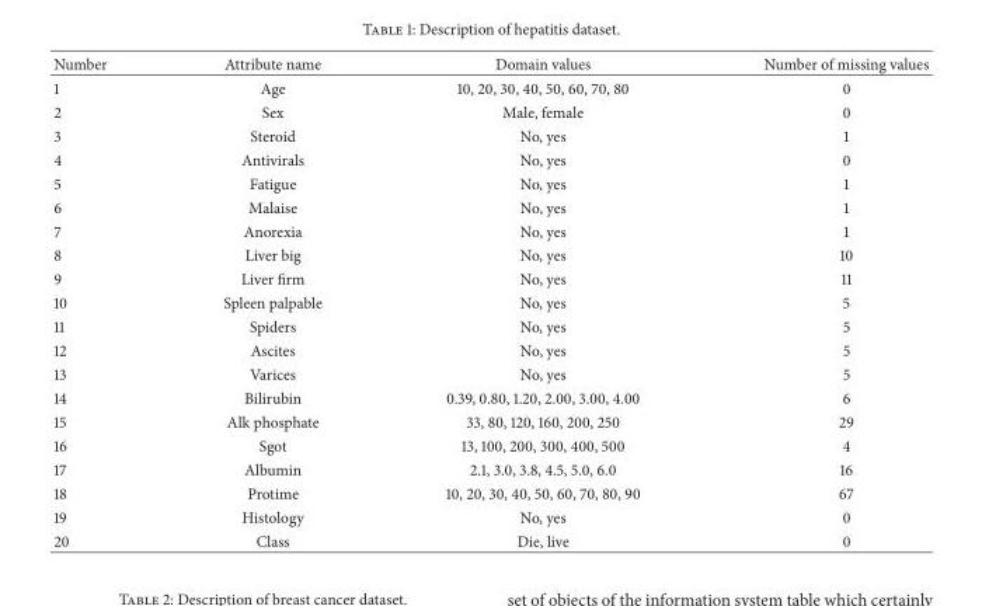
<table><thead><tr><td>Number</td><td>Attribute name</td><td>Domain values</td><td>Number of missing values</td></tr></thead><tbody><tr><td>1</td><td>Age</td><td>10, 20, 30, 40, 50, 60, 70, 80</td><td>0</td></tr><tr><td>2</td><td>Sex</td><td>Male, female</td><td>0</td></tr><tr><td>3</td><td>Steroid</td><td>No, yes</td><td>1</td></tr><tr><td>4</td><td>Antivirals</td><td>No, yes</td><td>0</td></tr><tr><td>5</td><td>Fatigue</td><td>No, yes</td><td>1</td></tr><tr><td>6</td><td>Malaise</td><td>No, yes</td><td>1</td></tr><tr><td>7</td><td>Anorexia</td><td>No, yes</td><td>1</td></tr><tr><td>8</td><td>Liver big</td><td>No, yes</td><td>10</td></tr><tr><td>9</td><td>Liver firm</td><td>No, yes</td><td>11</td></tr><tr><td>10</td><td>Spleen palpable</td><td>No, yes</td><td>5</td></tr><tr><td>11</td><td>Spiders</td><td>No, yes</td><td>5</td></tr><tr><td>12</td><td>Ascites</td><td>No, yes</td><td>5</td></tr><tr><td>13</td><td>Varices</td><td>No, yes</td><td>5</td></tr><tr><td>14</td><td>Bilirubin</td><td>0.39, 0.80, 1.20, 2.00, 3.00, 4.00</td><td>6</td></tr><tr><td>15</td><td>Alk phosphate</td><td>33, 80, 120, 160, 200, 250</td><td>29</td></tr><tr><td>16</td><td>Sgot</td><td>13, 100, 200, 300, 400, 500</td><td>4</td></tr><tr><td>17</td><td>Albumin</td><td>2.1, 3.0, 3.8, 4.5, 5.0, 6.0</td><td>16</td></tr><tr><td>18</td><td>Protime</td><td>10, 20, 30, 40, 50, 60, 70, 80, 90</td><td>67</td></tr><tr><td>19</td><td>Histology</td><td>No, yes</td><td>0</td></tr><tr><td>20</td><td>Class</td><td>Die, live</td><td>0</td></tr></tbody></table>